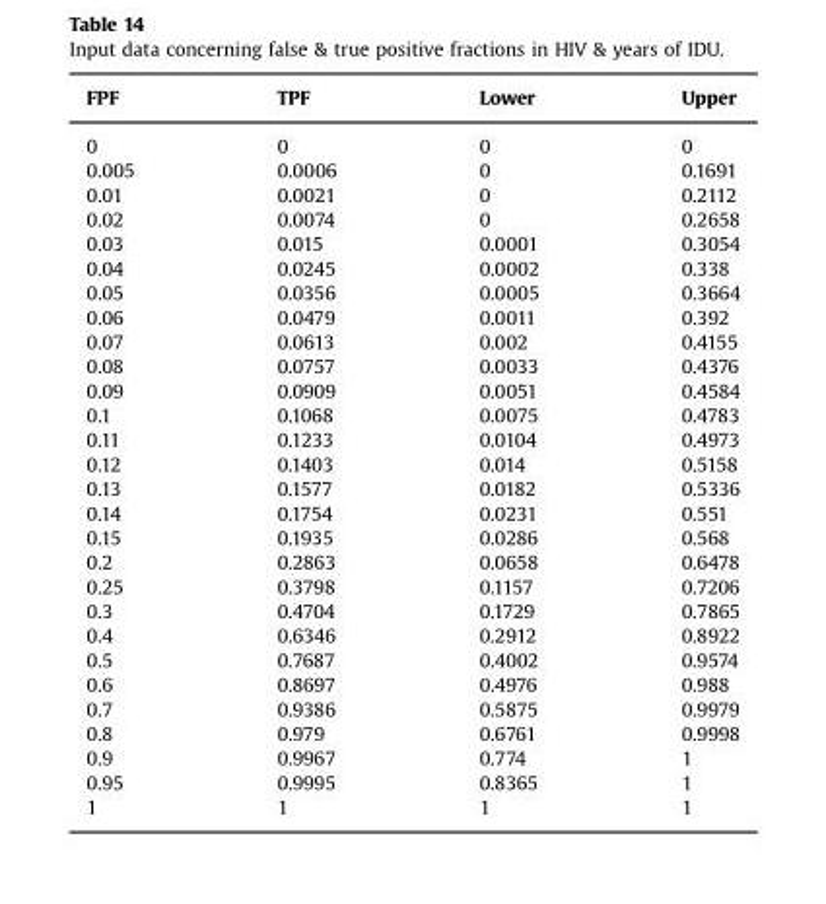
<table><thead><tr><td>FPF</td><td>TPF</td><td>Lower</td><td>Upper</td></tr></thead><tbody><tr><td>0</td><td>0</td><td>0</td><td>0</td></tr><tr><td>0.005</td><td>0.0006</td><td>0</td><td>0.1691</td></tr><tr><td>0.01</td><td>0.0021</td><td>0</td><td>0.2112</td></tr><tr><td>0.02</td><td>0.0074</td><td>0</td><td>0.2658</td></tr><tr><td>0.03</td><td>0.015</td><td>0.0001</td><td>0.3054</td></tr><tr><td>0.04</td><td>0.0245</td><td>0.0002</td><td>0.338</td></tr><tr><td>0.05</td><td>0.0356</td><td>0.0005</td><td>0.3664</td></tr><tr><td>0.06</td><td>0.0479</td><td>0.0011</td><td>0.392</td></tr><tr><td>0.07</td><td>0.0613</td><td>0.002</td><td>0.4155</td></tr><tr><td>0.08</td><td>0.0757</td><td>0.0033</td><td>0.4376</td></tr><tr><td>0.09</td><td>0.0909</td><td>0.0051</td><td>0.4584</td></tr><tr><td>0.1</td><td>0.1068</td><td>0.0075</td><td>0.4783</td></tr><tr><td>0.11</td><td>0.1233</td><td>0.0104</td><td>0.4973</td></tr><tr><td>0.12</td><td>0.1403</td><td>0.014</td><td>0.5158</td></tr><tr><td>0.13</td><td>0.1577</td><td>0.0182</td><td>0.5336</td></tr><tr><td>0.14</td><td>0.1754</td><td>0.0231</td><td>0.551</td></tr><tr><td>0.15</td><td>0.1935</td><td>0.0286</td><td>0.568</td></tr><tr><td>0.2</td><td>0.2863</td><td>0.0658</td><td>0.6478</td></tr><tr><td>0.25</td><td>0.3798</td><td>0.1157</td><td>0.7206</td></tr><tr><td>0.3</td><td>0.4704</td><td>0.1729</td><td>0.7865</td></tr><tr><td>0.4</td><td>0.6346</td><td>0.2912</td><td>0.8922</td></tr><tr><td>0.5</td><td>0.7687</td><td>0.4002</td><td>0.9574</td></tr><tr><td>0.6</td><td>0.8697</td><td>0.4976</td><td>0.988</td></tr><tr><td>0.7</td><td>0.9386</td><td>0.5875</td><td>0.9979</td></tr><tr><td>0.8</td><td>0.979</td><td>0.6761</td><td>0.9998</td></tr><tr><td>0.9</td><td>0.9967</td><td>0.774</td><td>1</td></tr><tr><td>0.95</td><td>0.9995</td><td>0.8365</td><td>1</td></tr><tr><td>1</td><td>1</td><td>1</td><td>1</td></tr></tbody></table>